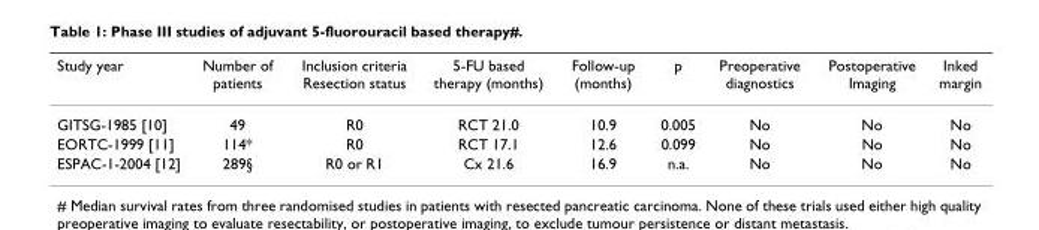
<table><thead><tr><td>Study year</td><td>Number of patients</td><td>Inclusion criteria Resection status</td><td>5-FU based therapy (months)</td><td>Follow-up (months)</td><td>p</td><td>Preoperative diagnostics</td><td>Postoperative Imaging</td><td>Inked margin</td></tr></thead><tbody><tr><td>GITSG-1985 [10]</td><td>49</td><td>R0</td><td>RCT 21.0</td><td>10.9</td><td>0.005</td><td>No</td><td>No</td><td>No</td></tr><tr><td>EORTC-1999 [11]</td><td>114*</td><td>R0</td><td>RCT 17.1</td><td>12.6</td><td>0.099</td><td>No</td><td>No</td><td>No</td></tr><tr><td>ESPAC-1-2004 [12]</td><td>289§</td><td>R0 or R1</td><td>Cx 21.6</td><td>16.9</td><td>n.a.</td><td>No</td><td>No</td><td>No</td></tr></tbody></table>